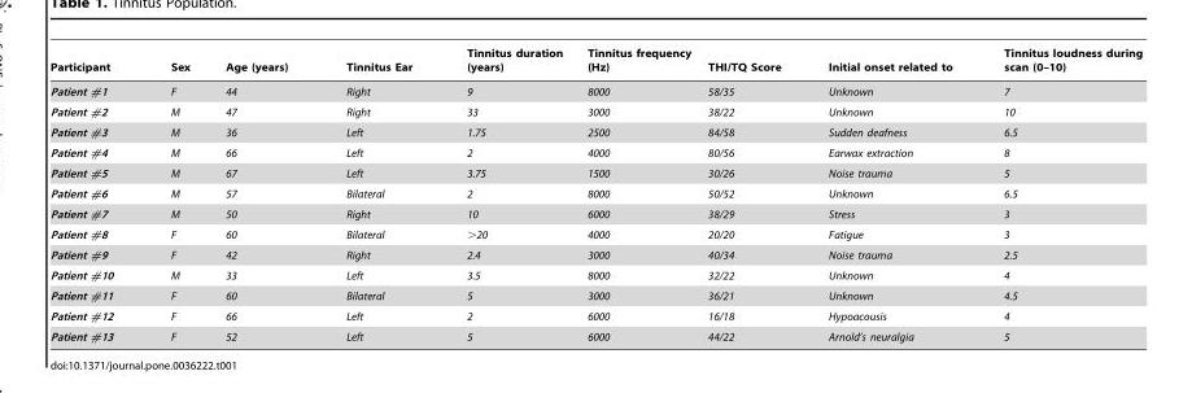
<table><thead><tr><td>Participant</td><td>Sex</td><td>Age (years)</td><td>Tinnitus Ear</td><td>Tinnitus duration (years)</td><td>Tinnitus frequency (Hz)</td><td>THI/TQ Score</td><td>Initial onset related to</td><td>Tinnitus loudness during scan (0–10)</td></tr></thead><tbody><tr><td>Patient #1</td><td>F</td><td>44</td><td>Right</td><td>9</td><td>8000</td><td>58/35</td><td>Unknown</td><td>7</td></tr><tr><td>Patient #2</td><td>M</td><td>47</td><td>Right</td><td>33</td><td>3000</td><td>38/22</td><td>Unknown</td><td>10</td></tr><tr><td>Patient #3</td><td>M</td><td>36</td><td>Left</td><td>1.75</td><td>2500</td><td>84/58</td><td>Sudden deafness</td><td>6.5</td></tr><tr><td>Patient #4</td><td>M</td><td>66</td><td>Left</td><td>2</td><td>4000</td><td>80/56</td><td>Earwax extraction</td><td>8</td></tr><tr><td>Patient #5</td><td>M</td><td>67</td><td>Left</td><td>3.75</td><td>1500</td><td>30/26</td><td>Noise trauma</td><td>5</td></tr><tr><td>Patient #6</td><td>M</td><td>57</td><td>Bilateral</td><td>2</td><td>8000</td><td>50/52</td><td>Unknown</td><td>6.5</td></tr><tr><td>Patient #7</td><td>M</td><td>50</td><td>Right</td><td>10</td><td>6000</td><td>38/29</td><td>Stress</td><td>3</td></tr><tr><td>Patient #8</td><td>F</td><td>60</td><td>Bilateral</td><td>&gt;20</td><td>4000</td><td>20/20</td><td>Fatigue</td><td>3</td></tr><tr><td>Patient #9</td><td>F</td><td>42</td><td>Right</td><td>2.4</td><td>3000</td><td>40/34</td><td>Noise trauma</td><td>2.5</td></tr><tr><td>Patient #10</td><td>M</td><td>33</td><td>Left</td><td>3.5</td><td>8000</td><td>32/22</td><td>Unknown</td><td>4</td></tr><tr><td>Patient #11</td><td>F</td><td>60</td><td>Bilateral</td><td>5</td><td>3000</td><td>36/21</td><td>Unknown</td><td>4.5</td></tr><tr><td>Patient #12</td><td>F</td><td>66</td><td>Left</td><td>2</td><td>6000</td><td>16/18</td><td>Hypoacousis</td><td>4</td></tr><tr><td>Patient #13</td><td>F</td><td>52</td><td>Left</td><td>5</td><td>6000</td><td>44/22</td><td>Arnold’s neuralgia</td><td>5</td></tr></tbody></table>